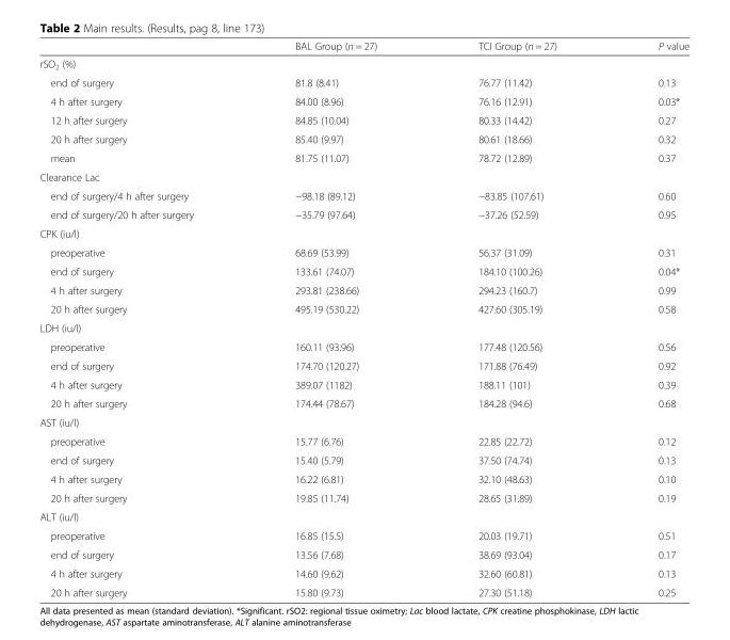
<table><thead><tr><td></td><td>BAL Group (n = 27)</td><td>TCI Group (n = 27)</td><td>P value</td></tr></thead><tbody><tr><td colspan="4">rSO<sub>2</sub> (%)</td></tr><tr><td>end of surgery</td><td>81.8 (8.41)</td><td>76.77 (11.42)</td><td>0.13</td></tr><tr><td>4 h after surgery</td><td>84.00 (8.96)</td><td>76.16 (12.91)</td><td>0.03*</td></tr><tr><td>12 h after surgery</td><td>84.85 (10.04)</td><td>80.33 (14.42)</td><td>0.27</td></tr><tr><td>20 h after surgery</td><td>85.40 (9.97)</td><td>80.61 (18.66)</td><td>0.32</td></tr><tr><td>mean</td><td>81.75 (11.07)</td><td>78.72 (12.89)</td><td>0.37</td></tr><tr><td colspan="4">Clearance Lac</td></tr><tr><td>end of surgery/4 h after surgery</td><td>−98.18 (89.12)</td><td>−83.85 (107.61)</td><td>0.60</td></tr><tr><td>end of surgery/20 h after surgery</td><td>−35.79 (97.64)</td><td>−37.26 (52.59)</td><td>0.95</td></tr><tr><td colspan="4">CPK (iu/l)</td></tr><tr><td>preoperative</td><td>68.69 (53.99)</td><td>56.37 (31.09)</td><td>0.31</td></tr><tr><td>end of surgery</td><td>133.61 (74.07)</td><td>184.10 (100.26)</td><td>0.04*</td></tr><tr><td>4 h after surgery</td><td>293.81 (238.66)</td><td>294.23 (160.7)</td><td>0.99</td></tr><tr><td>20 h after surgery</td><td>495.19 (530.22)</td><td>427.60 (305.19)</td><td>0.58</td></tr><tr><td colspan="4">LDH (iu/l)</td></tr><tr><td>preoperative</td><td>160.11 (93.96)</td><td>177.48 (120.56)</td><td>0.56</td></tr><tr><td>end of surgery</td><td>174.70 (120.27)</td><td>171.88 (76.49)</td><td>0.92</td></tr><tr><td>4 h after surgery</td><td>389.07 (1182)</td><td>188.11 (101)</td><td>0.39</td></tr><tr><td>20 h after surgery</td><td>174.44 (78.67)</td><td>184.28 (94.6)</td><td>0.68</td></tr><tr><td colspan="4">AST (iu/l)</td></tr><tr><td>preoperative</td><td>15.77 (6.76)</td><td>22.85 (22.72)</td><td>0.12</td></tr><tr><td>end of surgery</td><td>15.40 (5.79)</td><td>37.50 (74.74)</td><td>0.13</td></tr><tr><td>4 h after surgery</td><td>16.22 (6.81)</td><td>32.10 (48.63)</td><td>0.10</td></tr><tr><td>20 h after surgery</td><td>19.85 (11.74)</td><td>28.65 (31.89)</td><td>0.19</td></tr><tr><td colspan="4">ALT (iu/l)</td></tr><tr><td>preoperative</td><td>16.85 (15.5)</td><td>20.03 (19.71)</td><td>0.51</td></tr><tr><td>end of surgery</td><td>13.56 (7.68)</td><td>38.69 (93.04)</td><td>0.17</td></tr><tr><td>4 h after surgery</td><td>14.60 (9.62)</td><td>32.60 (60.81)</td><td>0.13</td></tr><tr><td>20 h after surgery</td><td>15.80 (9.73)</td><td>27.30 (51.18)</td><td>0.25</td></tr></tbody></table>